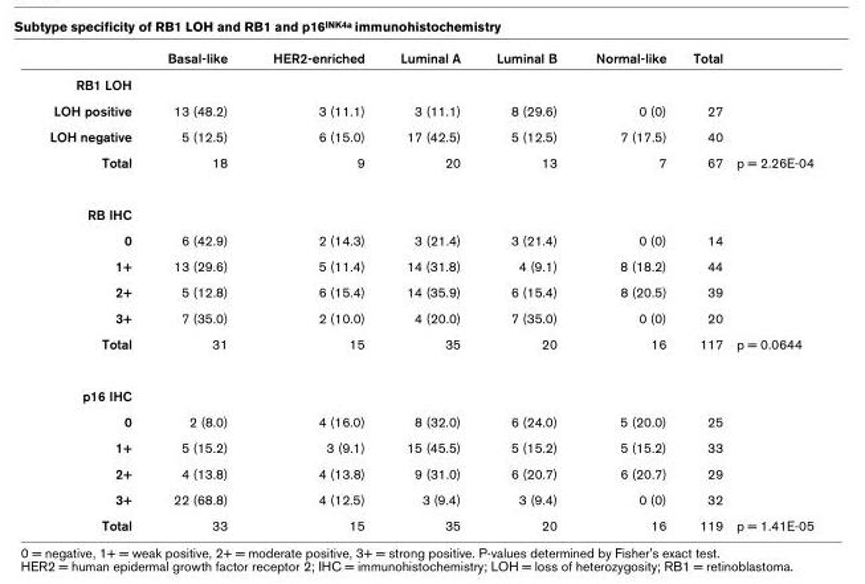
<table><thead><tr><td></td><td>Basal-like</td><td>HER2-enriched</td><td>Luminal A</td><td>Luminal B</td><td>Normal-like</td><td>Total</td><td></td></tr></thead><tbody><tr><td colspan="8">RB1 LOH</td></tr><tr><td>LOH positive</td><td>13 (48.2)</td><td>3 (11.1)</td><td>3 (11.1)</td><td>8 (29.6)</td><td>0 (0)</td><td>27</td><td></td></tr><tr><td>LOH negative</td><td>5 (12.5)</td><td>6 (15.0)</td><td>17 (42.5)</td><td>5 (12.5)</td><td>7 (17.5)</td><td>40</td><td></td></tr><tr><td>Total</td><td>18</td><td>9</td><td>20</td><td>13</td><td>7</td><td>67</td><td>p = 2.26E-04</td></tr><tr><td colspan="8">RB IHC</td></tr><tr><td>0</td><td>6 (42.9)</td><td>2 (14.3)</td><td>3 (21.4)</td><td>3 (21.4)</td><td>0 (0)</td><td>14</td><td></td></tr><tr><td>1+</td><td>13 (29.6)</td><td>5 (11.4)</td><td>14 (31.8)</td><td>4 (9.1)</td><td>8 (18.2)</td><td>44</td><td></td></tr><tr><td>2+</td><td>5 (12.8)</td><td>6 (15.4)</td><td>14 (35.9)</td><td>6 (15.4)</td><td>8 (20.5)</td><td>39</td><td></td></tr><tr><td>3+</td><td>7 (35.0)</td><td>2 (10.0)</td><td>4 (20.0)</td><td>7 (35.0)</td><td>0 (0)</td><td>20</td><td></td></tr><tr><td>Total</td><td>31</td><td>15</td><td>35</td><td>20</td><td>16</td><td>117</td><td>p = 0.0644</td></tr><tr><td colspan="8">p16 IHC</td></tr><tr><td>0</td><td>2 (8.0)</td><td>4 (16.0)</td><td>8 (32.0)</td><td>6 (24.0)</td><td>5 (20.0)</td><td>25</td><td></td></tr><tr><td>1+</td><td>5 (15.2)</td><td>3 (9.1)</td><td>15 (45.5)</td><td>5 (15.2)</td><td>5 (15.2)</td><td>33</td><td></td></tr><tr><td>2+</td><td>4 (13.8)</td><td>4 (13.8)</td><td>9 (31.0)</td><td>6 (20.7)</td><td>6 (20.7)</td><td>29</td><td></td></tr><tr><td>3+</td><td>22 (68.8)</td><td>4 (12.5)</td><td>3 (9.4)</td><td>3 (9.4)</td><td>0 (0)</td><td>32</td><td></td></tr><tr><td>Total</td><td>33</td><td>15</td><td>35</td><td>20</td><td>16</td><td>119</td><td>p = 1.41E-05</td></tr></tbody></table>